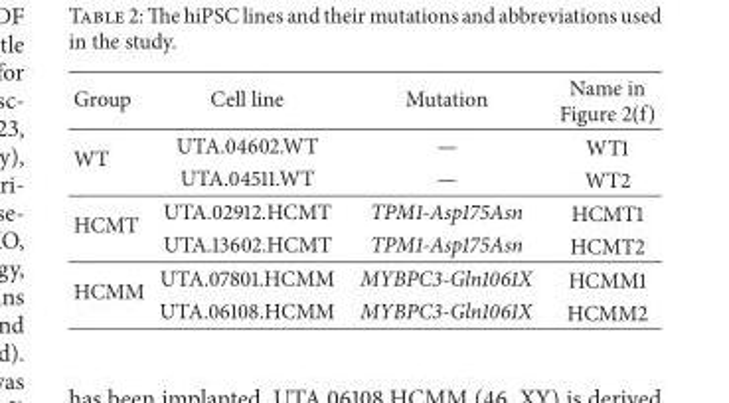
<table><thead><tr><td>Group</td><td>Cell line</td><td>Mutation</td><td>Name in Figure 2(f)</td></tr></thead><tbody><tr><td rowspan="2">WT</td><td>UTA.04602.WT</td><td>—</td><td>WT1</td></tr><tr><td>UTA.04511.WT</td><td>—</td><td>WT2</td></tr><tr><td rowspan="2">HCMT</td><td>UTA.02912.HCMT</td><td>TPM1-Asp175Asn</td><td>HCMT1</td></tr><tr><td>UTA.13602.HCMT</td><td>TPM1-Asp175Asn</td><td>HCMT2</td></tr><tr><td rowspan="2">HCMM</td><td>UTA.07801.HCMM</td><td>MYBPC3-Gln1061X</td><td>HCMM1</td></tr><tr><td>UTA.06108.HCMM</td><td>MYBPC3-Gln1061X</td><td>HCMM2</td></tr></tbody></table>